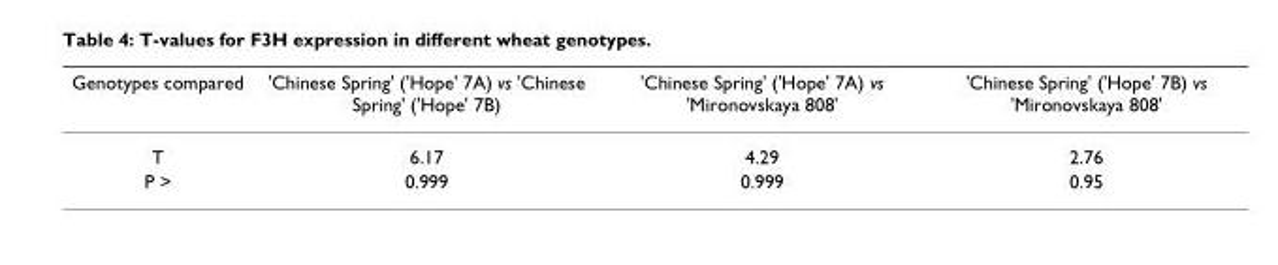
<table><thead><tr><td>Genotypes compared</td><td>&#x27;Chinese Spring&#x27; (&#x27;Hope&#x27; 7A) vs &#x27;Chinese Spring&#x27; (&#x27;Hope&#x27; 7B)</td><td>&#x27;Chinese Spring&#x27; (&#x27;Hope&#x27; 7A) vs &#x27;Mironovskaya 808&#x27;</td><td>&#x27;Chinese Spring&#x27; (&#x27;Hope&#x27; 7B) vs &#x27;Mironovskaya 808&#x27;</td></tr></thead><tbody><tr><td>T</td><td>6.17</td><td>4.29</td><td>2.76</td></tr><tr><td>P &gt;</td><td>0.999</td><td>0.999</td><td>0.95</td></tr></tbody></table>